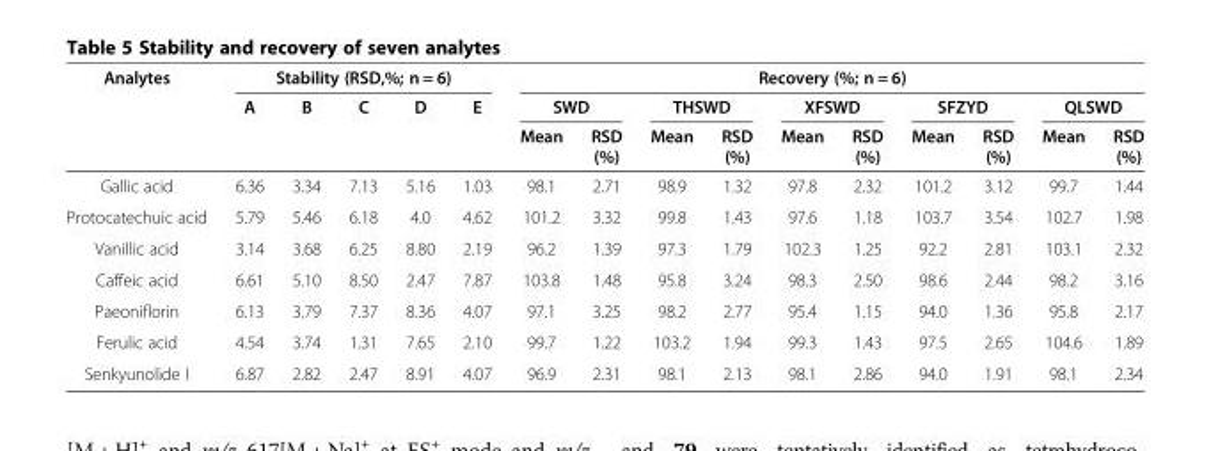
<table><thead><tr><td rowspan="3">Analytes</td><td colspan="5">Stability (RSD,%; n = 6)</td><td colspan="10">Recovery (%; n = 6)</td></tr><tr><td rowspan="2">A</td><td rowspan="2">B</td><td rowspan="2">C</td><td rowspan="2">D</td><td rowspan="2">E</td><td colspan="2">SWD</td><td colspan="2">THSWD</td><td colspan="2">XFSWD</td><td colspan="2">SFZYD</td><td colspan="2">QLSWD</td></tr><tr><td>Mean</td><td>RSD (%)</td><td>Mean</td><td>RSD (%)</td><td>Mean</td><td>RSD (%)</td><td>Mean</td><td>RSD (%)</td><td>Mean</td><td>RSD (%)</td></tr></thead><tbody><tr><td>Gallic acid</td><td>6.36</td><td>3.34</td><td>7.13</td><td>5.16</td><td>1.03</td><td>98.1</td><td>2.71</td><td>98.9</td><td>1.32</td><td>97.8</td><td>2.32</td><td>101.2</td><td>3.12</td><td>99.7</td><td>1.44</td></tr><tr><td>Protocatechuic acid</td><td>5.79</td><td>5.46</td><td>6.18</td><td>4.0</td><td>4.62</td><td>101.2</td><td>3.32</td><td>99.8</td><td>1.43</td><td>97.6</td><td>1.18</td><td>103.7</td><td>3.54</td><td>102.7</td><td>1.98</td></tr><tr><td>Vanillic acid</td><td>3.14</td><td>3.68</td><td>6.25</td><td>8.80</td><td>2.19</td><td>96.2</td><td>1.39</td><td>97.3</td><td>1.79</td><td>102.3</td><td>1.25</td><td>92.2</td><td>2.81</td><td>103.1</td><td>2.32</td></tr><tr><td>Caffeic acid</td><td>6.61</td><td>5.10</td><td>8.50</td><td>2.47</td><td>7.87</td><td>103.8</td><td>1.48</td><td>95.8</td><td>3.24</td><td>98.3</td><td>2.50</td><td>98.6</td><td>2.44</td><td>98.2</td><td>3.16</td></tr><tr><td>Paeoniflorin</td><td>6.13</td><td>3.79</td><td>7.37</td><td>8.36</td><td>4.07</td><td>97.1</td><td>3.25</td><td>98.2</td><td>2.77</td><td>95.4</td><td>1.15</td><td>94.0</td><td>1.36</td><td>95.8</td><td>2.17</td></tr><tr><td>Ferulic acid</td><td>4.54</td><td>3.74</td><td>1.31</td><td>7.65</td><td>2.10</td><td>99.7</td><td>1.22</td><td>103.2</td><td>1.94</td><td>99.3</td><td>1.43</td><td>97.5</td><td>2.65</td><td>104.6</td><td>1.89</td></tr><tr><td>Senkyunolide I</td><td>6.87</td><td>2.82</td><td>2.47</td><td>8.91</td><td>4.07</td><td>96.9</td><td>2.31</td><td>98.1</td><td>2.13</td><td>98.1</td><td>2.86</td><td>94.0</td><td>1.91</td><td>98.1</td><td>2.34</td></tr></tbody></table>